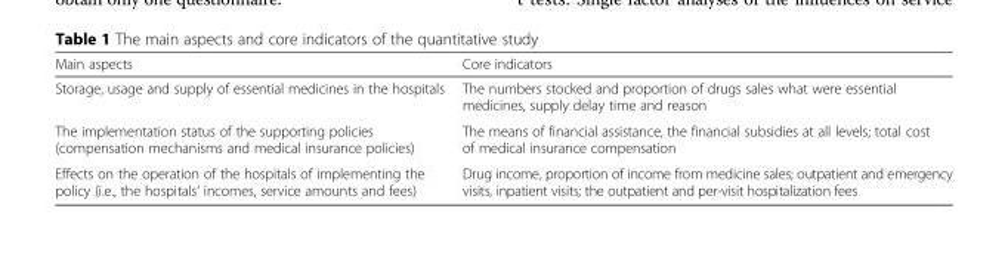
<table><thead><tr><td>Main aspects</td><td>Core indicators</td></tr></thead><tbody><tr><td>Storage, usage and supply of essential medicines in the hospitals</td><td>The numbers stocked and proportion of drugs sales what were essential medicines, supply delay time and reason</td></tr><tr><td>The implementation status of the supporting policies (compensation mechanisms and medical insurance policies)</td><td>The means of financial assistance, the financial subsidies at all levels; total cost of medical insurance compensation</td></tr><tr><td>Effects on the operation of the hospitals of implementing the policy (i.e., the hospitals’ incomes, service amounts and fees)</td><td>Drug income, proportion of income from medicine sales; outpatient and emergency visits, inpatient visits; the outpatient and per-visit hospitalization fees</td></tr></tbody></table>